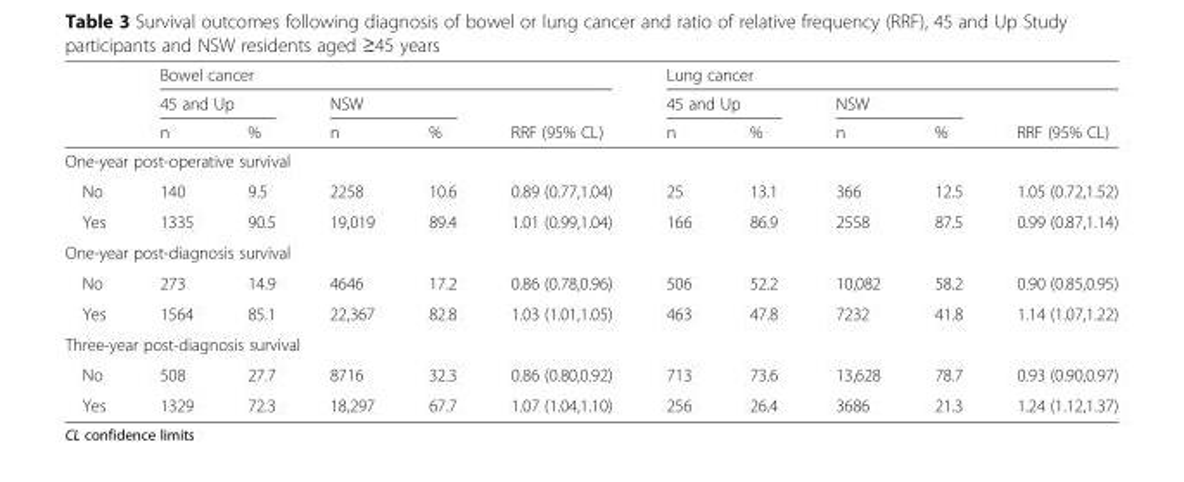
<table><thead><tr><td rowspan="3"></td><td colspan="5">Bowel cancer</td><td colspan="5">Lung cancer</td></tr><tr><td colspan="2">45 and Up</td><td colspan="2">NSW</td><td rowspan="2">RRF (95% CL)</td><td colspan="2">45 and Up</td><td colspan="2">NSW</td><td rowspan="2">RRF (95% CL)</td></tr><tr><td>n</td><td>%</td><td>n</td><td>%</td><td>n</td><td>%</td><td>n</td><td>%</td></tr></thead><tbody><tr><td colspan="11">One-year post-operative survival</td></tr><tr><td>No</td><td>140</td><td>9.5</td><td>2258</td><td>10.6</td><td>0.89 (0.77,1.04)</td><td>25</td><td>13.1</td><td>366</td><td>12.5</td><td>1.05 (0.72,1.52)</td></tr><tr><td>Yes</td><td>1335</td><td>90.5</td><td>19,019</td><td>89.4</td><td>1.01 (0.99,1.04)</td><td>166</td><td>86.9</td><td>2558</td><td>87.5</td><td>0.99 (0.87,1.14)</td></tr><tr><td colspan="11">One-year post-diagnosis survival</td></tr><tr><td>No</td><td>273</td><td>14.9</td><td>4646</td><td>17.2</td><td>0.86 (0.78,0.96)</td><td>506</td><td>52.2</td><td>10,082</td><td>58.2</td><td>0.90 (0.85,0.95)</td></tr><tr><td>Yes</td><td>1564</td><td>85.1</td><td>22,367</td><td>82.8</td><td>1.03 (1.01,1.05)</td><td>463</td><td>47.8</td><td>7232</td><td>41.8</td><td>1.14 (1.07,1.22)</td></tr><tr><td colspan="11">Three-year post-diagnosis survival</td></tr><tr><td>No</td><td>508</td><td>27.7</td><td>8716</td><td>32.3</td><td>0.86 (0.80,0.92)</td><td>713</td><td>73.6</td><td>13,628</td><td>78.7</td><td>0.93 (0.90,0.97)</td></tr><tr><td>Yes</td><td>1329</td><td>72.3</td><td>18,297</td><td>67.7</td><td>1.07 (1.04,1.10)</td><td>256</td><td>26.4</td><td>3686</td><td>21.3</td><td>1.24 (1.12,1.37)</td></tr></tbody></table>